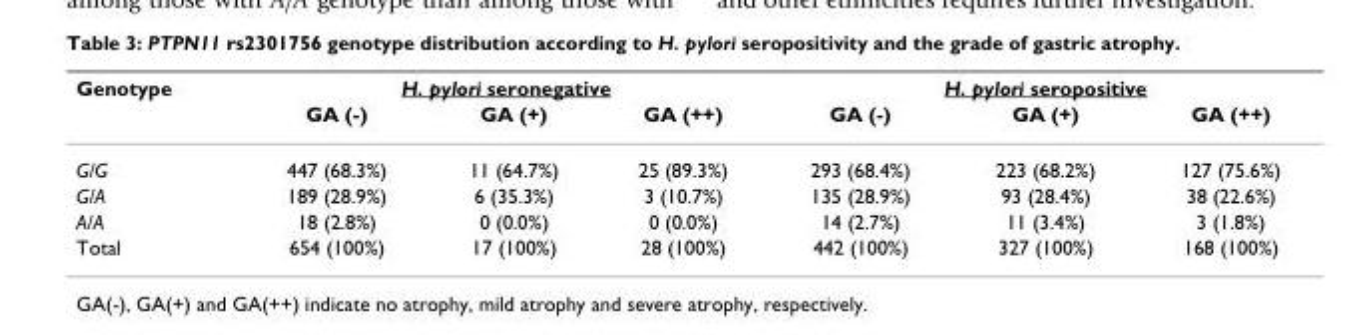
<table><thead><tr><td rowspan="2">Genotype</td><td colspan="3">H. pylori seronegative</td><td colspan="3">H. pylori seropositive</td></tr><tr><td>GA (-)</td><td>GA (+)</td><td>GA (++)</td><td>GA (-)</td><td>GA (+)</td><td>GA (++)</td></tr></thead><tbody><tr><td>G/G</td><td>447 (68.3%)</td><td>11 (64.7%)</td><td>25 (89.3%)</td><td>293 (68.4%)</td><td>223 (68.2%)</td><td>127 (75.6%)</td></tr><tr><td>G/A</td><td>189 (28.9%)</td><td>6 (35.3%)</td><td>3 (10.7%)</td><td>135 (28.9%)</td><td>93 (28.4%)</td><td>38 (22.6%)</td></tr><tr><td>A/A</td><td>18 (2.8%)</td><td>0 (0.0%)</td><td>0 (0.0%)</td><td>14 (2.7%)</td><td>11 (3.4%)</td><td>3 (1.8%)</td></tr><tr><td>Total</td><td>654 (100%)</td><td>17 (100%)</td><td>28 (100%)</td><td>442 (100%)</td><td>327 (100%)</td><td>168 (100%)</td></tr></tbody></table>